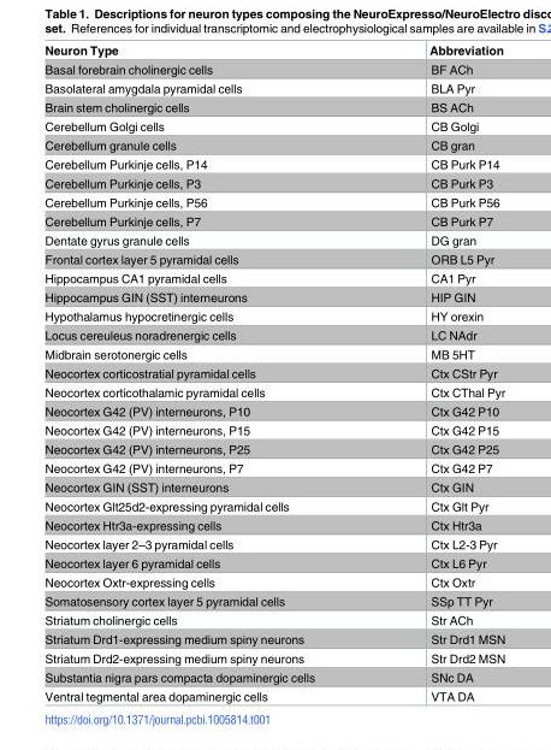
<table><thead><tr><td>Neuron Type</td><td>Abbreviation</td></tr></thead><tbody><tr><td>Basal forebrain cholinergic cells</td><td>BF ACh</td></tr><tr><td>Basolateral amygdala pyramidal cells</td><td>BLA Pyr</td></tr><tr><td>Brain stem cholinergic cells</td><td>BS ACh</td></tr><tr><td>Cerebellum Golgi cells</td><td>CB Golgi</td></tr><tr><td>Cerebellum granule cells</td><td>CB gran</td></tr><tr><td>Cerebellum Purkinje cells, P14</td><td>CB Purk P14</td></tr><tr><td>Cerebellum Purkinje cells, P3</td><td>CB Purk P3</td></tr><tr><td>Cerebellum Purkinje cells, P56</td><td>CB Purk P56</td></tr><tr><td>Cerebellum Purkinje cells, P7</td><td>CB Purk P7</td></tr><tr><td>Dentate gyrus granule cells</td><td>DG gran</td></tr><tr><td>Frontal cortex layer 5 pyramidal cells</td><td>ORB L5 Pyr</td></tr><tr><td>Hippocampus CA1 pyramidal cells</td><td>CA1 Pyr</td></tr><tr><td>Hippocampus GIN (SST) interneurons</td><td>HIP GIN</td></tr><tr><td>Hypothalamus hypocretinergic cells</td><td>HY orexin</td></tr><tr><td>Locus cereuleus noradrenergic cells</td><td>LC NAdr</td></tr><tr><td>Midbrain serotonergic cells</td><td>MB 5HT</td></tr><tr><td>Neocortex corticostratial pyramidal cells</td><td>Ctx CStr Pyr</td></tr><tr><td>Neocortex corticothalamic pyramidal cells</td><td>Ctx CThal Pyr</td></tr><tr><td>Neocortex G42 (PV) interneurons, P10</td><td>Ctx G42 P10</td></tr><tr><td>Neocortex G42 (PV) interneurons, P15</td><td>Ctx G42 P15</td></tr><tr><td>Neocortex G42 (PV) interneurons, P25</td><td>Ctx G42 P25</td></tr><tr><td>Neocortex G42 (PV) interneurons, P7</td><td>Ctx G42 P7</td></tr><tr><td>Neocortex GIN (SST) interneurons</td><td>Ctx GIN</td></tr><tr><td>Neocortex Glt25d2-expressing pyramidal cells</td><td>Ctx Glt Pyr</td></tr><tr><td>Neocortex Htr3a-expressing cells</td><td>Ctx Htr3a</td></tr><tr><td>Neocortex layer 2–3 pyramidal cells</td><td>Ctx L2-3 Pyr</td></tr><tr><td>Neocortex layer 6 pyramidal cells</td><td>Ctx L6 Pyr</td></tr><tr><td>Neocortex Oxtr-expressing cells</td><td>Ctx Oxtr</td></tr><tr><td>Somatosensory cortex layer 5 pyramidal cells</td><td>SSp TT Pyr</td></tr><tr><td>Striatum cholinergic cells</td><td>Str ACh</td></tr><tr><td>Striatum Drd1-expressing medium spiny neurons</td><td>Str Drd1 MSN</td></tr><tr><td>Striatum Drd2-expressing medium spiny neurons</td><td>Str Drd2 MSN</td></tr><tr><td>Substantia nigra pars compacta dopaminergic cells</td><td>SNc DA</td></tr><tr><td>Ventral tegmental area dopaminergic cells</td><td>VTA DA</td></tr></tbody></table>